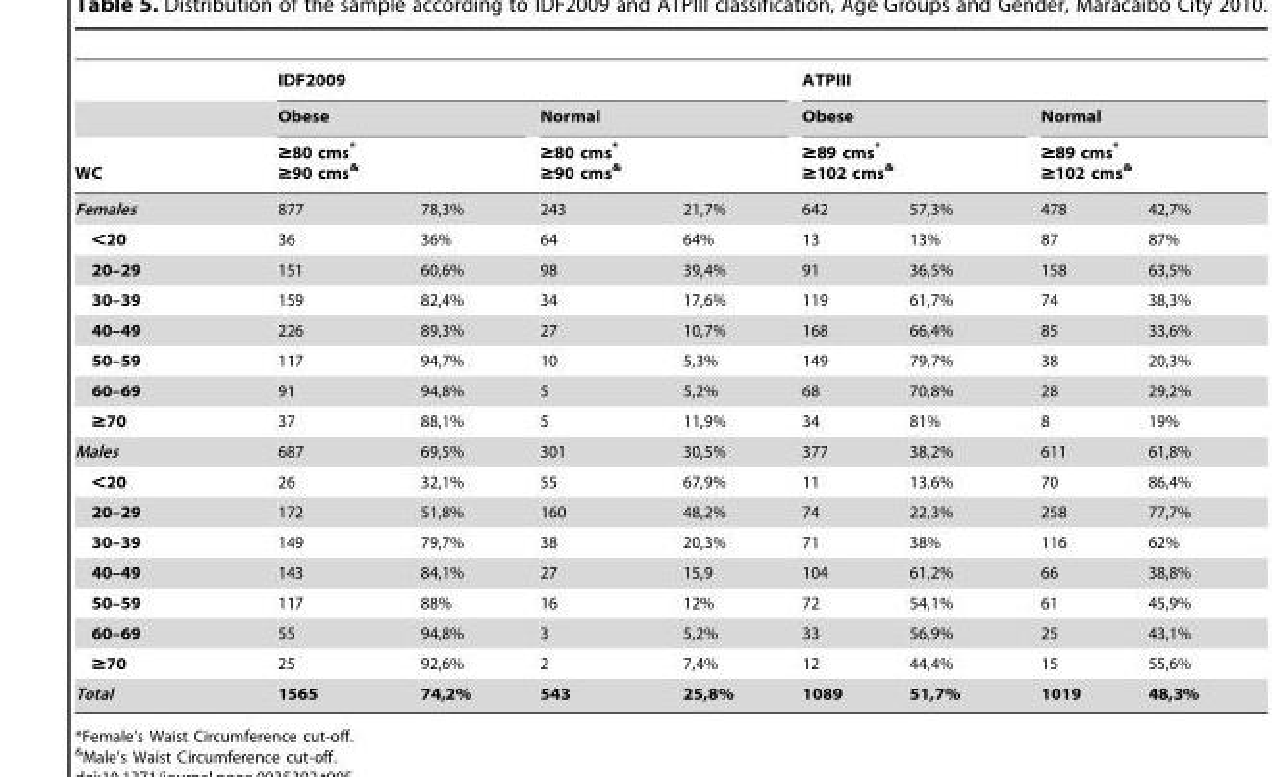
<table><thead><tr><td rowspan="4">WC Females</td><td colspan="4">IDF2009</td><td colspan="4">ATPIII</td></tr><tr><td rowspan="2" colspan="2">Obese ≥80 cms* ≥90 cms&amp;</td><td rowspan="2" colspan="2">Normal ≥80 cms* ≥90 cms&amp;</td><td rowspan="2" colspan="2">Obese ≥89 cms* ≥102 cms&amp;</td><td rowspan="2" colspan="2">Normal ≥89 cms* ≥102 cms&amp;</td></tr><tr></tr><tr><td>877</td><td>78,3%</td><td>243</td><td>21,7%</td><td>642</td><td>57,3%</td><td>478</td><td>42,7%</td></tr></thead><tbody><tr><td>&lt;20</td><td>36</td><td>36%</td><td>64</td><td>64%</td><td>13</td><td>13%</td><td>87</td><td>87%</td></tr><tr><td>20–29</td><td>151</td><td>60,6%</td><td>98</td><td>39,4%</td><td>91</td><td>36,5%</td><td>158</td><td>63,5%</td></tr><tr><td>30–39</td><td>159</td><td>82,4%</td><td>34</td><td>17,6%</td><td>119</td><td>61,7%</td><td>74</td><td>38,3%</td></tr><tr><td>40–49</td><td>226</td><td>89,3%</td><td>27</td><td>10,7%</td><td>168</td><td>66,4%</td><td>85</td><td>33,6%</td></tr><tr><td>50–59</td><td>117</td><td>94,7%</td><td>10</td><td>5,3%</td><td>149</td><td>79,7%</td><td>38</td><td>20,3%</td></tr><tr><td>60–69</td><td>91</td><td>94,8%</td><td>5</td><td>5,2%</td><td>68</td><td>70,8%</td><td>28</td><td>29,2%</td></tr><tr><td>≥70</td><td>37</td><td>88,1%</td><td>5</td><td>11,9%</td><td>34</td><td>81%</td><td>8</td><td>19%</td></tr><tr><td>Males</td><td>687</td><td>69,5%</td><td>301</td><td>30,5%</td><td>377</td><td>38,2%</td><td>611</td><td>61,8%</td></tr><tr><td>&lt;20</td><td>26</td><td>32,1%</td><td>55</td><td>67,9%</td><td>11</td><td>13,6%</td><td>70</td><td>86,4%</td></tr><tr><td>20–29</td><td>172</td><td>51,8%</td><td>160</td><td>48,2%</td><td>74</td><td>22,3%</td><td>258</td><td>77,7%</td></tr><tr><td>30–39</td><td>149</td><td>79,7%</td><td>38</td><td>20,3%</td><td>71</td><td>38%</td><td>116</td><td>62%</td></tr><tr><td>40–49</td><td>143</td><td>84,1%</td><td>27</td><td>15,9</td><td>104</td><td>61,2%</td><td>66</td><td>38,8%</td></tr><tr><td>50–59</td><td>117</td><td>88%</td><td>16</td><td>12%</td><td>72</td><td>54,1%</td><td>61</td><td>45,9%</td></tr><tr><td>60–69</td><td>55</td><td>94,8%</td><td>3</td><td>5,2%</td><td>33</td><td>56,9%</td><td>25</td><td>43,1%</td></tr><tr><td>≥70</td><td>25</td><td>92,6%</td><td>2</td><td>7,4%</td><td>12</td><td>44,4%</td><td>15</td><td>55,6%</td></tr><tr><td>Total</td><td>1565</td><td>74,2%</td><td>543</td><td>25,8%</td><td>1089</td><td>51,7%</td><td>1019</td><td>48,3%</td></tr></tbody></table>